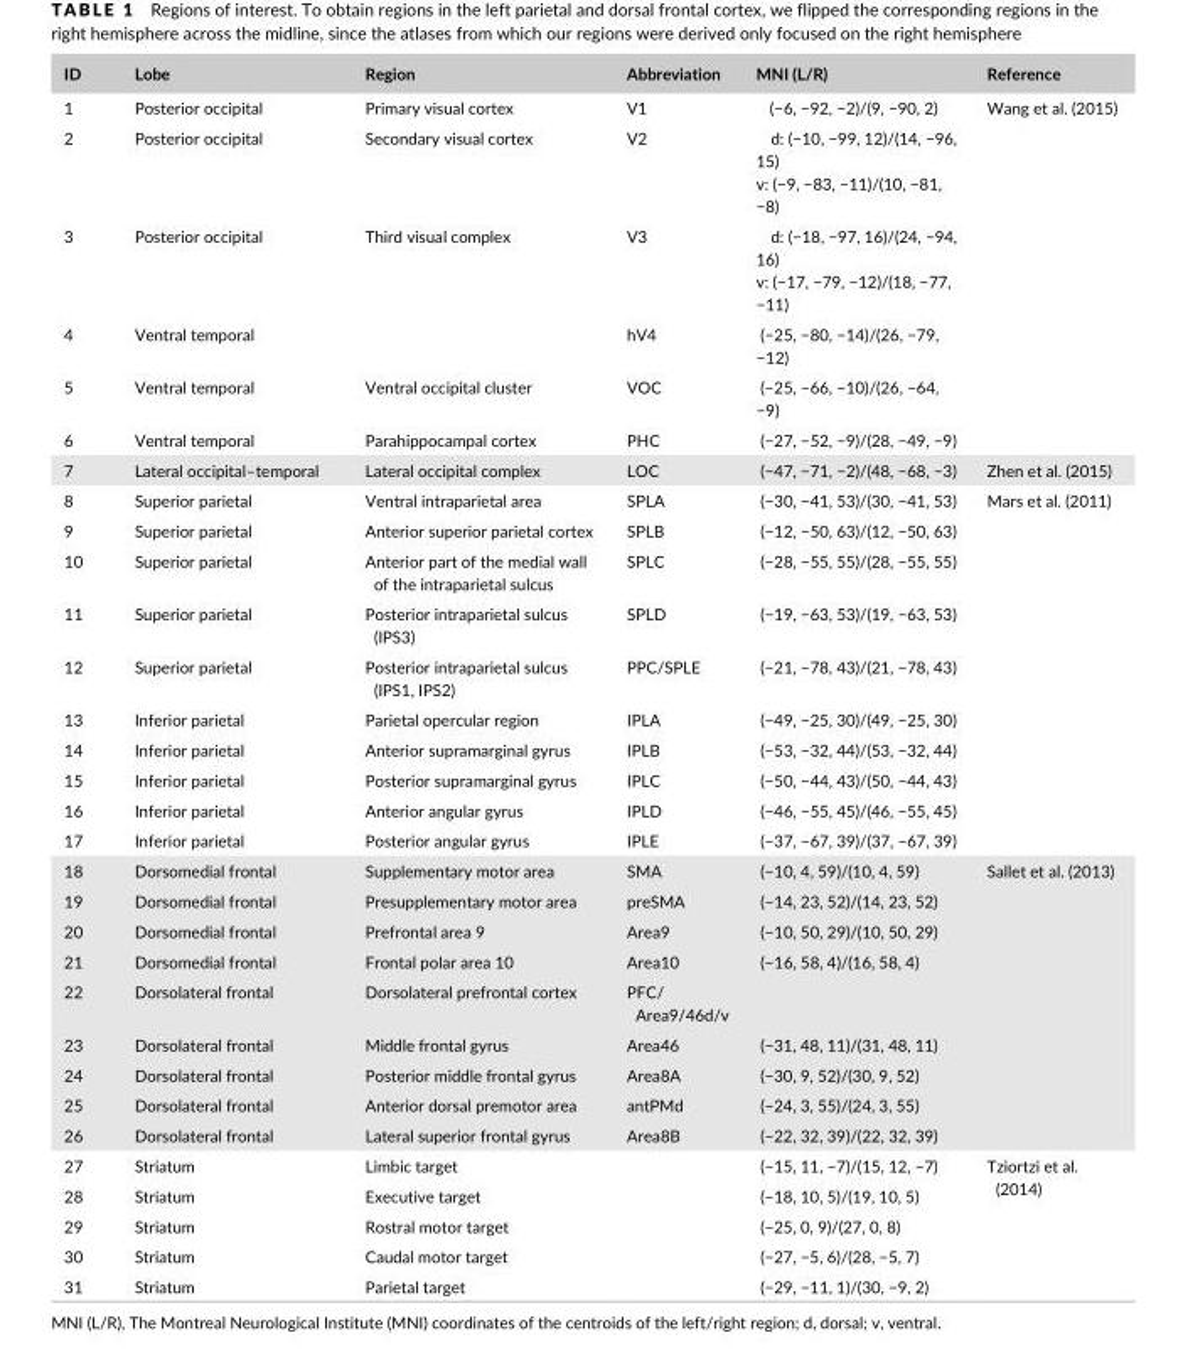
<table><thead><tr><td>ID</td><td>Lobe</td><td>Region</td><td>Abbreviation</td><td>MNI (L/R)</td><td>Reference</td></tr></thead><tbody><tr><td>1</td><td>Posterior occipital</td><td>Primary visual cortex</td><td>V1</td><td>(−6, −92, −2)/(9, −90, 2)</td><td rowspan="6">Wang et al. (2015)</td></tr><tr><td>2</td><td>Posterior occipital</td><td>Secondary visual cortex</td><td>V2</td><td>d: (−10, −99, 12)/(14, −96, 15) v: (−9, −83, −11)/(10, −81, −8)</td></tr><tr><td>3</td><td>Posterior occipital</td><td>Third visual complex</td><td>V3</td><td>d: (−18, −97, 16)/(24, −94, 16) v: (−17, −79, −12)/(18, −77, −11)</td></tr><tr><td>4</td><td>Ventral temporal</td><td></td><td>hV4</td><td>(−25, −80, −14)/(26, −79, −12)</td></tr><tr><td>5</td><td>Ventral temporal</td><td>Ventral occipital cluster</td><td>VOC</td><td>(−25, −66, −10)/(26, −64, −9)</td></tr><tr><td>6</td><td>Ventral temporal</td><td>Parahippocampal cortex</td><td>PHC</td><td>(−27, −52, −9)/(28, −49, −9)</td></tr><tr><td>7</td><td>Lateral occipital–temporal</td><td>Lateral occipital complex</td><td>LOC</td><td>(−47, −71, −2)/(48, −68, −3)</td><td>Zhen et al. (2015)</td></tr><tr><td>8</td><td>Superior parietal</td><td>Ventral intraparietal area</td><td>SPLA</td><td>(−30, −41, 53)/(30, −41, 53)</td><td rowspan="10">Mars et al. (2011)</td></tr><tr><td>9</td><td>Superior parietal</td><td>Anterior superior parietal cortex</td><td>SPLB</td><td>(−12, −50, 63)/(12, −50, 63)</td></tr><tr><td>10</td><td>Superior parietal</td><td>Anterior part of the medial wall of the intraparietal sulcus</td><td>SPLC</td><td>(−28, −55, 55)/(28, −55, 55)</td></tr><tr><td>11</td><td>Superior parietal</td><td>Posterior intraparietal sulcus (IPS3)</td><td>SPLD</td><td>(−19, −63, 53)/(19, −63, 53)</td></tr><tr><td>12</td><td>Superior parietal</td><td>Posterior intraparietal sulcus (IPS1, IPS2)</td><td>PPC/SPLE</td><td>(−21, −78, 43)/(21, −78, 43)</td></tr><tr><td>13</td><td>Inferior parietal</td><td>Parietal opercular region</td><td>IPLA</td><td>(−49, −25, 30)/(49, −25, 30)</td></tr><tr><td>14</td><td>Inferior parietal</td><td>Anterior supramarginal gyrus</td><td>IPLB</td><td>(−53, −32, 44)/(53, −32, 44)</td></tr><tr><td>15</td><td>Inferior parietal</td><td>Posterior supramarginal gyrus</td><td>IPLC</td><td>(−50, −44, 43)/(50, −44, 43)</td></tr><tr><td>16</td><td>Inferior parietal</td><td>Anterior angular gyrus</td><td>IPLD</td><td>(−46, −55, 45)/(46, −55, 45)</td></tr><tr><td>17</td><td>Inferior parietal</td><td>Posterior angular gyrus</td><td>IPLE</td><td>(−37, −67, 39)/(37, −67, 39)</td></tr><tr><td>18</td><td>Dorsomedial frontal</td><td>Supplementary motor area</td><td>SMA</td><td>(−10, 4, 59)/(10, 4, 59)</td><td rowspan="9">Sallet et al. (2013)</td></tr><tr><td>19</td><td>Dorsomedial frontal</td><td>Presupplementary motor area</td><td>preSMA</td><td>(−14, 23, 52)/(14, 23, 52)</td></tr><tr><td>20</td><td>Dorsomedial frontal</td><td>Prefrontal area 9</td><td>Area9</td><td>(−10, 50, 29)/(10, 50, 29)</td></tr><tr><td>21</td><td>Dorsomedial frontal</td><td>Frontal polar area 10</td><td>Area10</td><td>(−16, 58, 4)/(16, 58, 4)</td></tr><tr><td>22</td><td>Dorsolateral frontal</td><td>Dorsolateral prefrontal cortex</td><td>PFC/ Area9/46d/v</td><td></td></tr><tr><td>23</td><td>Dorsolateral frontal</td><td>Middle frontal gyrus</td><td>Area46</td><td>(−31, 48, 11)/(31, 48, 11)</td></tr><tr><td>24</td><td>Dorsolateral frontal</td><td>Posterior middle frontal gyrus</td><td>Area8A</td><td>(−30, 9, 52)/(30, 9, 52)</td></tr><tr><td>25</td><td>Dorsolateral frontal</td><td>Anterior dorsal premotor area</td><td>antPMd</td><td>(−24, 3, 55)/(24, 3, 55)</td></tr><tr><td>26</td><td>Dorsolateral frontal</td><td>Lateral superior frontal gyrus</td><td>Area8B</td><td>(−22, 32, 39)/(22, 32, 39)</td></tr><tr><td>27</td><td>Striatum</td><td>Limbic target</td><td></td><td>(−15, 11, −7)/(15, 12, −7)</td><td rowspan="5">Tziortzi et al. (2014)</td></tr><tr><td>28</td><td>Striatum</td><td>Executive target</td><td></td><td>(−18, 10, 5)/(19, 10, 5)</td></tr><tr><td>29</td><td>Striatum</td><td>Rostral motor target</td><td></td><td>(−25, 0, 9)/(27, 0, 8)</td></tr><tr><td>30</td><td>Striatum</td><td>Caudal motor target</td><td></td><td>(−27, −5, 6)/(28, −5, 7)</td></tr><tr><td>31</td><td>Striatum</td><td>Parietal target</td><td></td><td>(−29, −11, 1)/(30, −9, 2)</td></tr></tbody></table>